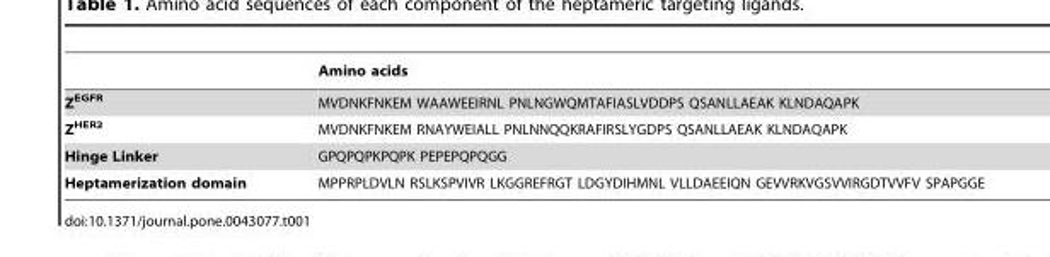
<table><thead><tr><td></td><td>Amino acids</td></tr></thead><tbody><tr><td>Z<sup>EGFR</sup></td><td>MVDNKFNKEM WAAWEEIRNL PNLNGWQMTAFIASLVDDPS QSANLLAEAK KLNDAQAPK</td></tr><tr><td>Z<sup>HER2</sup></td><td>MVDNKFNKEM RNAYWEIALL PNLNNQQKRAFIRSLYGDPS QSANLLAEAK KLNDAQAPK</td></tr><tr><td>Hinge Linker</td><td>GPQPQPKPQPK PEPEPQPQGG</td></tr><tr><td>Heptamerization domain</td><td>MPPRPLDVLN RSLKSPVIVR LKGGREFRGT LDGYDIHMNL VLLDAEEIQN GEVVRKVGSVVIRGDTVVFV SPAPGGE</td></tr></tbody></table>